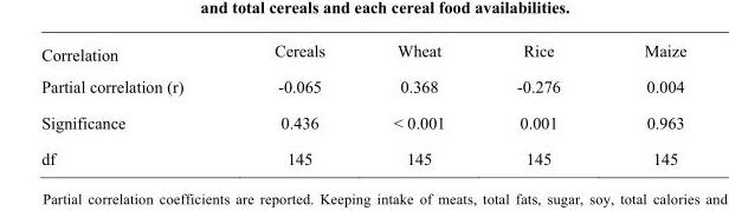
<table><tbody><tr><td>Correlation</td><td>Cereals</td><td>Wheat</td><td>Rice</td><td>Maize</td></tr><tr><td>Partial correlation (r)</td><td>-0.065</td><td>0.368</td><td>-0.276</td><td>0.004</td></tr><tr><td>Significance</td><td>0.436</td><td>&lt; 0.001</td><td>0.001</td><td>0.963</td></tr><tr><td>df</td><td>145</td><td>145</td><td>145</td><td>145</td></tr></tbody></table>